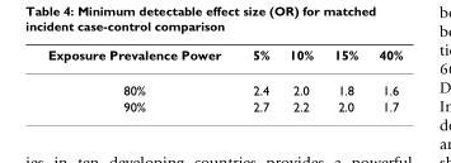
<table><thead><tr><td>Exposure Prevalence Power</td><td>5%</td><td>10%</td><td>15%</td><td>40%</td></tr></thead><tbody><tr><td>80%</td><td>2.4</td><td>2.0</td><td>1.8</td><td>1.6</td></tr><tr><td>90%</td><td>2.7</td><td>2.2</td><td>2.0</td><td>1.7</td></tr></tbody></table>